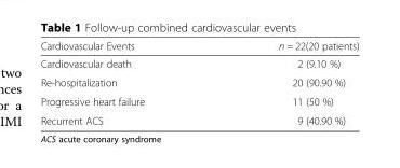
<table><thead><tr><td>Cardiovascular Events</td><td>n = 22(20 patients)</td></tr></thead><tbody><tr><td>Cardiovascular death</td><td>2 (9.10 %)</td></tr><tr><td>Re-hospitalization</td><td>20 (90.90 %)</td></tr><tr><td>Progressive heart failure</td><td>11 (50 %)</td></tr><tr><td>Recurrent ACS</td><td>9 (40.90 %)</td></tr></tbody></table>